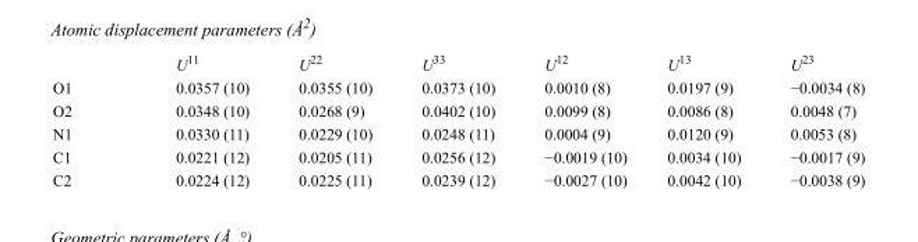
<table><thead><tr><td></td><td>U<sup>11</sup></td><td>U<sup>22</sup></td><td>U<sup>33</sup></td><td>U<sup>12</sup></td><td>U<sup>13</sup></td><td>U<sup>23</sup></td></tr></thead><tbody><tr><td>O1</td><td>0.0357 (10)</td><td>0.0355 (10)</td><td>0.0373 (10)</td><td>0.0010 (8)</td><td>0.0197 (9)</td><td>−0.0034 (8)</td></tr><tr><td>O2</td><td>0.0348 (10)</td><td>0.0268 (9)</td><td>0.0402 (10)</td><td>0.0099 (8)</td><td>0.0086 (8)</td><td>0.0048 (7)</td></tr><tr><td>N1</td><td>0.0330 (11)</td><td>0.0229 (10)</td><td>0.0248 (11)</td><td>0.0004 (9)</td><td>0.0120 (9)</td><td>0.0053 (8)</td></tr><tr><td>C1</td><td>0.0221 (12)</td><td>0.0205 (11)</td><td>0.0256 (12)</td><td>−0.0019 (10)</td><td>0.0034 (10)</td><td>−0.0017 (9)</td></tr><tr><td>C2</td><td>0.0224 (12)</td><td>0.0225 (11)</td><td>0.0239 (12)</td><td>−0.0027 (10)</td><td>0.0042 (10)</td><td>−0.0038 (9)</td></tr></tbody></table>